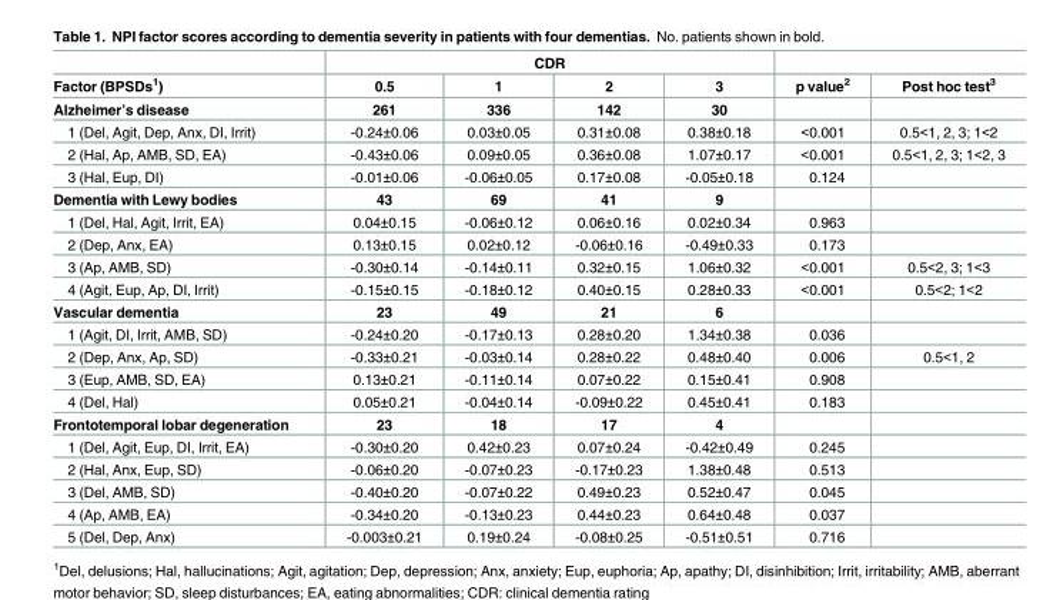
<table><thead><tr><td rowspan="2">Factor (BPSDs<sup>1</sup>)</td><td colspan="4">CDR</td><td rowspan="2">p value<sup>2</sup></td><td rowspan="2">Post hoc test<sup>3</sup></td></tr><tr><td>0.5</td><td>1</td><td>2</td><td>3</td></tr></thead><tbody><tr><td>Alzheimer’s disease</td><td>261</td><td>336</td><td>142</td><td>30</td><td></td><td></td></tr><tr><td>1 (Del, Agit, Dep, Anx, DI, Irrit)</td><td>-0.24±0.06</td><td>0.03±0.05</td><td>0.31±0.08</td><td>0.38±0.18</td><td>&lt;0.001</td><td>0.5&lt;1, 2, 3; 1&lt;2</td></tr><tr><td>2 (Hal, Ap, AMB, SD, EA)</td><td>-0.43±0.06</td><td>0.09±0.05</td><td>0.36±0.08</td><td>1.07±0.17</td><td>&lt;0.001</td><td>0.5&lt;1, 2, 3; 1&lt;2, 3</td></tr><tr><td>3 (Hal, Eup, DI)</td><td>-0.01±0.06</td><td>-0.06±0.05</td><td>0.17±0.08</td><td>-0.05±0.18</td><td>0.124</td><td></td></tr><tr><td>Dementia with Lewy bodies</td><td>43</td><td>69</td><td>41</td><td>9</td><td></td><td></td></tr><tr><td>1 (Del, Hal, Agit, Irrit, EA)</td><td>0.04±0.15</td><td>-0.06±0.12</td><td>0.06±0.16</td><td>0.02±0.34</td><td>0.963</td><td></td></tr><tr><td>2 (Dep, Anx, EA)</td><td>0.13±0.15</td><td>0.02±0.12</td><td>-0.06±0.16</td><td>-0.49±0.33</td><td>0.173</td><td></td></tr><tr><td>3 (Ap, AMB, SD)</td><td>-0.30±0.14</td><td>-0.14±0.11</td><td>0.32±0.15</td><td>1.06±0.32</td><td>&lt;0.001</td><td>0.5&lt;2, 3; 1&lt;3</td></tr><tr><td>4 (Agit, Eup, Ap, DI, Irrit)</td><td>-0.15±0.15</td><td>-0.18±0.12</td><td>0.40±0.15</td><td>0.28±0.33</td><td>&lt;0.001</td><td>0.5&lt;2; 1&lt;2</td></tr><tr><td>Vascular dementia</td><td>23</td><td>49</td><td>21</td><td>6</td><td></td><td></td></tr><tr><td>1 (Agit, DI, Irrit, AMB, SD)</td><td>-0.24±0.20</td><td>-0.17±0.13</td><td>0.28±0.20</td><td>1.34±0.38</td><td>0.036</td><td></td></tr><tr><td>2 (Dep, Anx, Ap, SD)</td><td>-0.33±0.21</td><td>-0.03±0.14</td><td>0.28±0.22</td><td>0.48±0.40</td><td>0.006</td><td>0.5&lt;1, 2</td></tr><tr><td>3 (Eup, AMB, SD, EA)</td><td>0.13±0.21</td><td>-0.11±0.14</td><td>0.07±0.22</td><td>0.15±0.41</td><td>0.908</td><td></td></tr><tr><td>4 (Del, Hal)</td><td>0.05±0.21</td><td>-0.04±0.14</td><td>-0.09±0.22</td><td>0.45±0.41</td><td>0.183</td><td></td></tr><tr><td>Frontotemporal lobar degeneration</td><td>23</td><td>18</td><td>17</td><td>4</td><td></td><td></td></tr><tr><td>1 (Del, Agit, Eup, DI, Irrit, EA)</td><td>-0.30±0.20</td><td>0.42±0.23</td><td>0.07±0.24</td><td>-0.42±0.49</td><td>0.245</td><td></td></tr><tr><td>2 (Hal, Anx, Eup, SD)</td><td>-0.06±0.20</td><td>-0.07±0.23</td><td>-0.17±0.23</td><td>1.38±0.48</td><td>0.513</td><td></td></tr><tr><td>3 (Del, AMB, SD)</td><td>-0.40±0.20</td><td>-0.07±0.22</td><td>0.49±0.23</td><td>0.52±0.47</td><td>0.045</td><td></td></tr><tr><td>4 (Ap, AMB, EA)</td><td>-0.34±0.20</td><td>-0.13±0.23</td><td>0.44±0.23</td><td>0.64±0.48</td><td>0.037</td><td></td></tr><tr><td>5 (Del, Dep, Anx)</td><td>-0.003±0.21</td><td>0.19±0.24</td><td>-0.08±0.25</td><td>-0.51±0.51</td><td>0.716</td><td></td></tr></tbody></table>